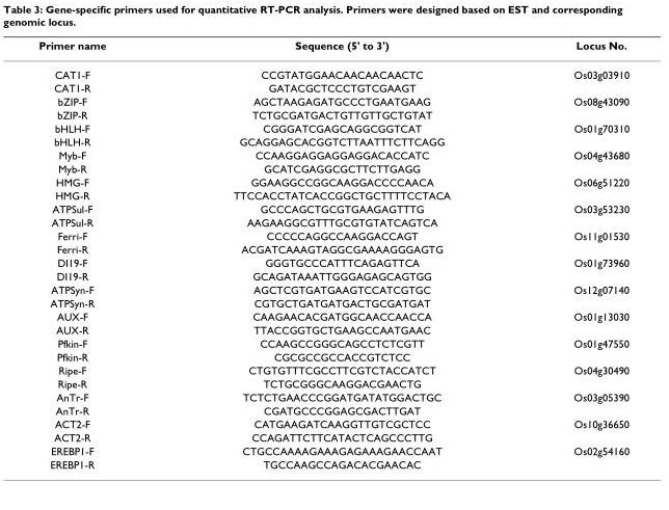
<table><thead><tr><td>Primer name</td><td>Sequence (5&#x27; to 3&#x27;)</td><td>Locus No.</td></tr></thead><tbody><tr><td>CAT1-F</td><td>CCGTATGGAACAACAACAACTC</td><td>Os03g03910</td></tr><tr><td>CAT1-R</td><td>GATACGCTCCCTGTCGAAGT</td><td></td></tr><tr><td>bZIP-F</td><td>AGCTAAGAGATGCCCTGAATGAAG</td><td>Os08g43090</td></tr><tr><td>bZIP-R</td><td>TCTGCGATGACTGTTGTTGCTGTAT</td><td></td></tr><tr><td>bHLH-F</td><td>CGGGATCGAGCAGGCGGTCAT</td><td>Os01g70310</td></tr><tr><td>bHLH-R</td><td>GCAGGAGCACGGTCTTAATTTCTTCAGG</td><td></td></tr><tr><td>Myb-F</td><td>CCAAGGAGGAGGAGGACACCATC</td><td>Os04g43680</td></tr><tr><td>Myb-R</td><td>GCATCGAGGCGCTTCTTGAGG</td><td></td></tr><tr><td>HMG-F</td><td>GGAAGGCCGGCAAGGACCCCAACA</td><td>Os06g51220</td></tr><tr><td>HMG-R</td><td>TTCCACCTATCACCGGCTGCTTTTCCTACA</td><td></td></tr><tr><td>ATPSul-F</td><td>GCCCAGCTGCGTGAAGAGTTTG</td><td>Os03g53230</td></tr><tr><td>ATPSul-R</td><td>AAGAAGGCGTTTGCGTGTATCAGTCA</td><td></td></tr><tr><td>Ferri-F</td><td>CCCCCAGGCCAAGGACCAGT</td><td>Os11g01530</td></tr><tr><td>Ferri-R</td><td>ACGATCAAAGTAGGCGAAAAGGGAGTG</td><td></td></tr><tr><td>DI19-F</td><td>GGGTGCCCATTTCAGAGTTCA</td><td>Os01g73960</td></tr><tr><td>DI19-R</td><td>GCAGATAAATTGGGAGAGCAGTGG</td><td></td></tr><tr><td>ATPSyn-F</td><td>AGCTCGTGATGAAGTCCATCGTGC</td><td>Os12g07140</td></tr><tr><td>ATPSyn-R</td><td>CGTGCTGATGATGACTGCGATGAT</td><td></td></tr><tr><td>AUX-F</td><td>CAAGAACACGATGGCAACCAACCA</td><td>Os01g13030</td></tr><tr><td>AUX-R</td><td>TTACCGGTGCTGAAGCCAATGAAC</td><td></td></tr><tr><td>Pfkin-F</td><td>CCAAGCCGGGCAGCCTCTCGTT</td><td>Os01g47550</td></tr><tr><td>Pfkin-R</td><td>CGCGCCGCCACCGTCTCC</td><td></td></tr><tr><td>Ripe-F</td><td>CTGTGTTTCGCCTTCGTCTACCATCT</td><td>Os04g30490</td></tr><tr><td>Ripe-R</td><td>TCTGCGGGCAAGGACGAACTG</td><td></td></tr><tr><td>AnTr-F</td><td>TCTCTGAACCCGGATGATATGGACTGC</td><td>Os03g05390</td></tr><tr><td>AnTr-R</td><td>CGATGCCCGGAGCGACTTGAT</td><td></td></tr><tr><td>ACT2-F</td><td>CATGAAGATCAAGGTTGTCGCTCC</td><td>Os10g36650</td></tr><tr><td>ACT2-R</td><td>CCAGATTCTTCATACTCAGCCCTTG</td><td></td></tr><tr><td>EREBP1-F</td><td>CTGCCAAAAGAAAGAGAAAGAACCAAT</td><td>Os02g54160</td></tr><tr><td>EREBP1-R</td><td>TGCCAAGCCAGACACGAACAC</td><td></td></tr></tbody></table>